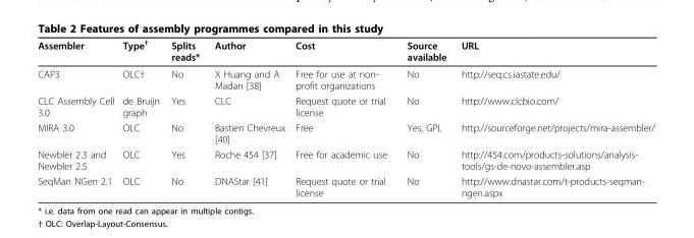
<table><thead><tr><td>Assembler</td><td>Type<sup>†</sup></td><td>Splits reads*</td><td>Author</td><td>Cost</td><td>Source available</td><td>URL</td></tr></thead><tbody><tr><td>CAP3</td><td>OLC†</td><td>No</td><td>X Huang and A Madan [38]</td><td>Free for use at non- profit organizations</td><td>No</td><td>http://seq.cs.iastate.edu/</td></tr><tr><td>CLC Assembly Cell 3.0</td><td>de Bruijn graph</td><td>Yes</td><td>CLC</td><td>Request quote or trial license</td><td>No</td><td>http://www.clcbio.com/</td></tr><tr><td>MIRA 3.0</td><td>OLC</td><td>No</td><td>Bastien Chevreux [40]</td><td>Free</td><td>Yes, GPL</td><td>http://sourceforge.net/projects/mira-assembler/</td></tr><tr><td>Newbler 2.3 and Newbler 2.5</td><td>OLC</td><td>Yes</td><td>Roche 454 [37]</td><td>Free for academic use</td><td>No</td><td>http://454.com/products-solutions/analysis- tools/gs-de-novo-assembler.asp</td></tr><tr><td>SeqMan NGen 2.1</td><td>OLC</td><td>No</td><td>DNAStar [41]</td><td>Request quote or trial license</td><td>No</td><td>http://www.dnastar.com/t-products-seqman- ngen.aspx</td></tr></tbody></table>